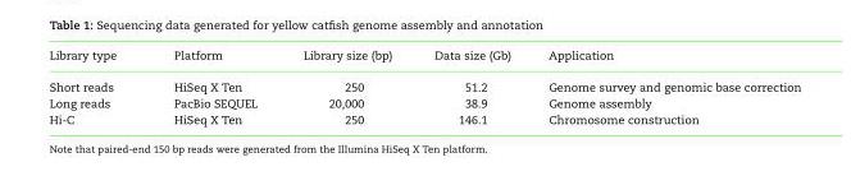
<table><thead><tr><td>Library type</td><td>Platform</td><td>Library size (bp)</td><td>Data size (Gb)</td><td>Application</td></tr></thead><tbody><tr><td>Short reads</td><td>HiSeq X Ten</td><td>250</td><td>51.2</td><td>Genome survey and genomic base correction</td></tr><tr><td>Long reads</td><td>PacBio SEQUEL</td><td>20,000</td><td>38.9</td><td>Genome assembly</td></tr><tr><td>Hi-C</td><td>HiSeq X Ten</td><td>250</td><td>146.1</td><td>Chromosome construction</td></tr></tbody></table>